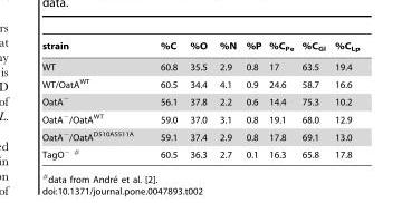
<table><thead><tr><td>strain</td><td>%C</td><td>%O</td><td>%N</td><td>%P</td><td>%C<sub>Pe</sub></td><td>%C<sub>Gl</sub></td><td>%C<sub>Lp</sub></td></tr></thead><tbody><tr><td>WT</td><td>60.8</td><td>35.5</td><td>2.9</td><td>0.8</td><td>17</td><td>63.5</td><td>19.4</td></tr><tr><td>WT/OatA<sup>WT</sup></td><td>60.5</td><td>34.4</td><td>4.1</td><td>0.9</td><td>24.6</td><td>58.7</td><td>16.6</td></tr><tr><td>OatA<sup>−</sup></td><td>56.1</td><td>37.8</td><td>2.2</td><td>0.6</td><td>14.4</td><td>75.3</td><td>10.2</td></tr><tr><td>OatA<sup>−</sup>/OatA<sup>WT</sup></td><td>59.0</td><td>37.0</td><td>3.1</td><td>0.8</td><td>19.1</td><td>68.0</td><td>12.9</td></tr><tr><td>OatA<sup>−</sup>/OatA<sup>D510AS511A</sup></td><td>59.1</td><td>37.4</td><td>2.9</td><td>0.8</td><td>17.8</td><td>69.1</td><td>13.0</td></tr><tr><td>TagO<sup>−</sup> #</td><td>60.5</td><td>36.3</td><td>2.7</td><td>0.1</td><td>16.3</td><td>65.8</td><td>17.8</td></tr></tbody></table>